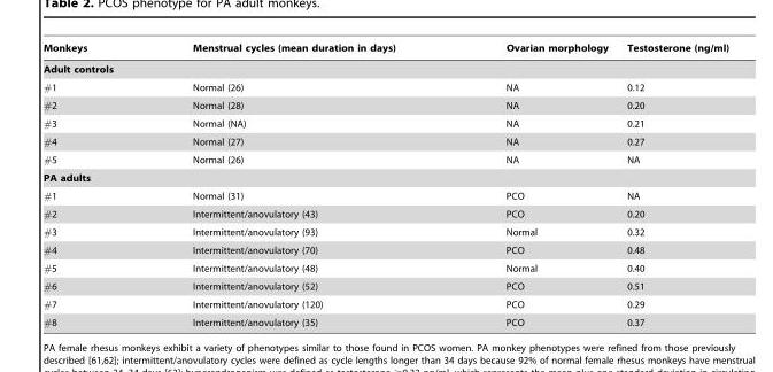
<table><thead><tr><td>Monkeys</td><td>Menstrual cycles (mean duration in days)</td><td>Ovarian morphology</td><td>Testosterone (ng/ml)</td></tr></thead><tbody><tr><td colspan="4">Adult controls</td></tr><tr><td>#1</td><td>Normal (26)</td><td>NA</td><td>0.12</td></tr><tr><td>#2</td><td>Normal (28)</td><td>NA</td><td>0.20</td></tr><tr><td>#3</td><td>Normal (NA)</td><td>NA</td><td>0.21</td></tr><tr><td>#4</td><td>Normal (27)</td><td>NA</td><td>0.27</td></tr><tr><td>#5</td><td>Normal (26)</td><td>NA</td><td>NA</td></tr><tr><td colspan="4">PA adults</td></tr><tr><td>#1</td><td>Normal (31)</td><td>PCO</td><td>NA</td></tr><tr><td>#2</td><td>Intermittent/anovulatory (43)</td><td>PCO</td><td>0.20</td></tr><tr><td>#3</td><td>Intermittent/anovulatory (93)</td><td>Normal</td><td>0.32</td></tr><tr><td>#4</td><td>Intermittent/anovulatory (70)</td><td>PCO</td><td>0.48</td></tr><tr><td>#5</td><td>Intermittent/anovulatory (48)</td><td>Normal</td><td>0.40</td></tr><tr><td>#6</td><td>Intermittent/anovulatory (52)</td><td>PCO</td><td>0.51</td></tr><tr><td>#7</td><td>Intermittent/anovulatory (120)</td><td>PCO</td><td>0.29</td></tr><tr><td>#8</td><td>Intermittent/anovulatory (35)</td><td>PCO</td><td>0.37</td></tr></tbody></table>